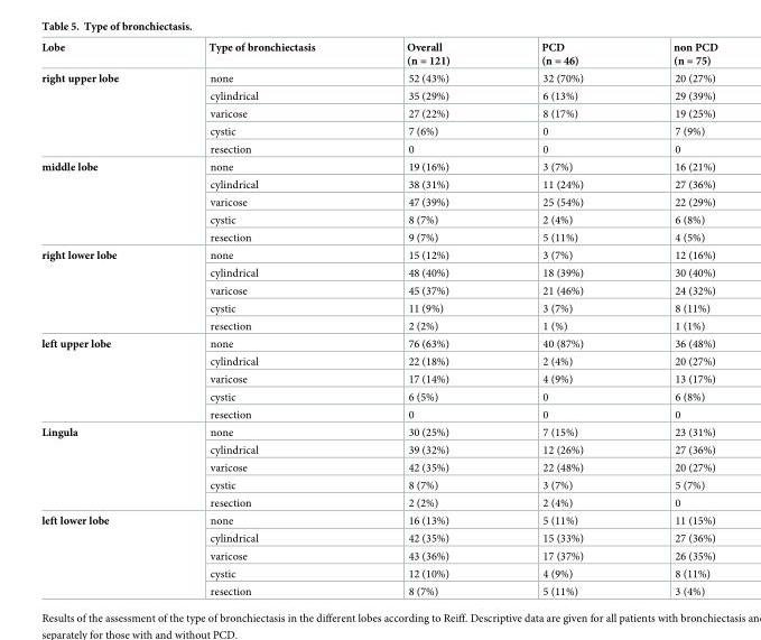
<table><thead><tr><td>Lobe</td><td>Type of bronchiectasis</td><td>Overall (n = 121)</td><td>PCD (n = 46)</td><td>non PCD (n = 75)</td></tr></thead><tbody><tr><td rowspan="5">right upper lobe</td><td>none</td><td>52 (43%)</td><td>32 (70%)</td><td>20 (27%)</td></tr><tr><td>cylindrical</td><td>35 (29%)</td><td>6 (13%)</td><td>29 (39%)</td></tr><tr><td>varicose</td><td>27 (22%)</td><td>8 (17%)</td><td>19 (25%)</td></tr><tr><td>cystic</td><td>7 (6%)</td><td>0</td><td>7 (9%)</td></tr><tr><td>resection</td><td>0</td><td>0</td><td>0</td></tr><tr><td rowspan="5">middle lobe</td><td>none</td><td>19 (16%)</td><td>3 (7%)</td><td>16 (21%)</td></tr><tr><td>cylindrical</td><td>38 (31%)</td><td>11 (24%)</td><td>27 (36%)</td></tr><tr><td>varicose</td><td>47 (39%)</td><td>25 (54%)</td><td>22 (29%)</td></tr><tr><td>cystic</td><td>8 (7%)</td><td>2 (4%)</td><td>6 (8%)</td></tr><tr><td>resection</td><td>9 (7%)</td><td>5 (11%)</td><td>4 (5%)</td></tr><tr><td rowspan="5">right lower lobe</td><td>none</td><td>15 (12%)</td><td>3 (7%)</td><td>12 (16%)</td></tr><tr><td>cylindrical</td><td>48 (40%)</td><td>18 (39%)</td><td>30 (40%)</td></tr><tr><td>varicose</td><td>45 (37%)</td><td>21 (46%)</td><td>24 (32%)</td></tr><tr><td>cystic</td><td>11 (9%)</td><td>3 (7%)</td><td>8 (11%)</td></tr><tr><td>resection</td><td>2 (2%)</td><td>1 (%)</td><td>1 (1%)</td></tr><tr><td rowspan="5">left upper lobe</td><td>none</td><td>76 (63%)</td><td>40 (87%)</td><td>36 (48%)</td></tr><tr><td>cylindrical</td><td>22 (18%)</td><td>2 (4%)</td><td>20 (27%)</td></tr><tr><td>varicose</td><td>17 (14%)</td><td>4 (9%)</td><td>13 (17%)</td></tr><tr><td>cystic</td><td>6 (5%)</td><td>0</td><td>6 (8%)</td></tr><tr><td>resection</td><td>0</td><td>0</td><td>0</td></tr><tr><td rowspan="5">Lingula</td><td>none</td><td>30 (25%)</td><td>7 (15%)</td><td>23 (31%)</td></tr><tr><td>cylindrical</td><td>39 (32%)</td><td>12 (26%)</td><td>27 (36%)</td></tr><tr><td>varicose</td><td>42 (35%)</td><td>22 (48%)</td><td>20 (27%)</td></tr><tr><td>cystic</td><td>8 (7%)</td><td>3 (7%)</td><td>5 (7%)</td></tr><tr><td>resection</td><td>2 (2%)</td><td>2 (4%)</td><td>0</td></tr><tr><td rowspan="5">left lower lobe</td><td>none</td><td>16 (13%)</td><td>5 (11%)</td><td>11 (15%)</td></tr><tr><td>cylindrical</td><td>42 (35%)</td><td>15 (33%)</td><td>27 (36%)</td></tr><tr><td>varicose</td><td>43 (36%)</td><td>17 (37%)</td><td>26 (35%)</td></tr><tr><td>cystic</td><td>12 (10%)</td><td>4 (9%)</td><td>8 (11%)</td></tr><tr><td>resection</td><td>8 (7%)</td><td>5 (11%)</td><td>3 (4%)</td></tr></tbody></table>